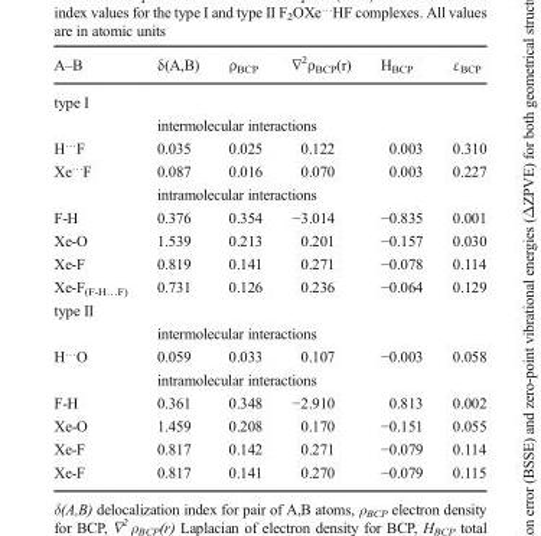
<table><thead><tr><td>A–B</td><td>δ(A,B)</td><td>ρ<sub>BCP</sub></td><td>∇<sup>2</sup>ρ<sub>BCP</sub>(r)</td><td>H<sub>BCP</sub></td><td>ε<sub>BCP</sub></td></tr></thead><tbody><tr><td colspan="6">type I</td></tr><tr><td></td><td colspan="5">intermolecular interactions</td></tr><tr><td>H<sup>…</sup>F</td><td>0.035</td><td>0.025</td><td>0.122</td><td>0.003</td><td>0.310</td></tr><tr><td rowspan="2">Xe<sup>…</sup>F</td><td>0.087</td><td>0.016</td><td>0.070</td><td>0.003</td><td>0.227</td></tr><tr><td colspan="5">intramolecular interactions</td></tr><tr><td>F-H</td><td>0.376</td><td>0.354</td><td>−3.014</td><td>−0.835</td><td>0.001</td></tr><tr><td>Xe-O</td><td>1.539</td><td>0.213</td><td>0.201</td><td>−0.157</td><td>0.030</td></tr><tr><td>Xe-F</td><td>0.819</td><td>0.141</td><td>0.271</td><td>−0.078</td><td>0.114</td></tr><tr><td>Xe-F<sub>(F-H…F)</sub></td><td>0.731</td><td>0.126</td><td>0.236</td><td>−0.064</td><td>0.129</td></tr><tr><td colspan="6">type II</td></tr><tr><td></td><td colspan="5">intermolecular interactions</td></tr><tr><td rowspan="2">H<sup>…</sup>O</td><td>0.059</td><td>0.033</td><td>0.107</td><td>−0.003</td><td>0.058</td></tr><tr><td colspan="5">intramolecular interactions</td></tr><tr><td>F-H</td><td>0.361</td><td>0.348</td><td>−2.910</td><td>0.813</td><td>0.002</td></tr><tr><td>Xe-O</td><td>1.459</td><td>0.208</td><td>0.170</td><td>−0.151</td><td>0.055</td></tr><tr><td>Xe-F</td><td>0.817</td><td>0.142</td><td>0.271</td><td>−0.079</td><td>0.114</td></tr><tr><td>Xe-F</td><td>0.817</td><td>0.141</td><td>0.270</td><td>−0.079</td><td>0.115</td></tr></tbody></table>